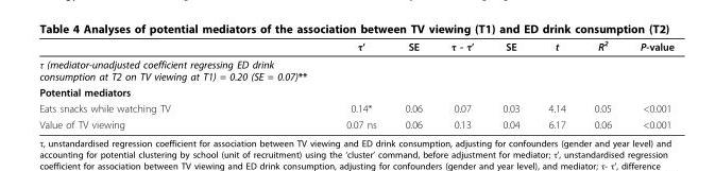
<table><thead><tr><td></td><td>τ’</td><td>SE</td><td>τ - τ’</td><td>SE</td><td>t</td><td>R<sup>2</sup></td><td>P-value</td></tr></thead><tbody><tr><td colspan="8">τ (mediator-unadjusted coefficient regressing ED drink consumption at T2 on TV viewing at T1) = 0.20 (SE = 0.07)**</td></tr><tr><td colspan="8">Potential mediators</td></tr><tr><td>Eats snacks while watching TV</td><td>0.14*</td><td>0.06</td><td>0.07</td><td>0.03</td><td>4.14</td><td>0.05</td><td>&lt;0.001</td></tr><tr><td>Value of TV viewing</td><td>0.07 ns</td><td>0.06</td><td>0.13</td><td>0.04</td><td>6.17</td><td>0.06</td><td>&lt;0.001</td></tr></tbody></table>